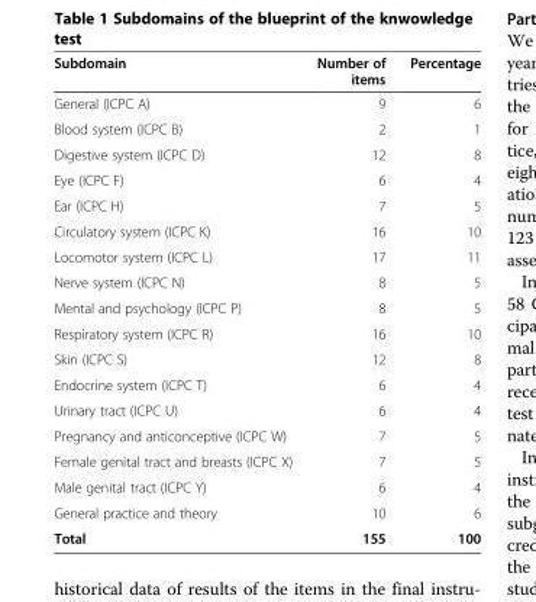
<table><thead><tr><td>Subdomain</td><td>Number of items</td><td>Percentage</td></tr></thead><tbody><tr><td>General (ICPC A)</td><td>9</td><td>6</td></tr><tr><td>Blood system (ICPC B)</td><td>2</td><td>1</td></tr><tr><td>Digestive system (ICPC D)</td><td>12</td><td>8</td></tr><tr><td>Eye (ICPC F)</td><td>6</td><td>4</td></tr><tr><td>Ear (ICPC H)</td><td>7</td><td>5</td></tr><tr><td>Circulatory system (ICPC K)</td><td>16</td><td>10</td></tr><tr><td>Locomotor system (ICPC L)</td><td>17</td><td>11</td></tr><tr><td>Nerve system (ICPC N)</td><td>8</td><td>5</td></tr><tr><td>Mental and psychology (ICPC P)</td><td>8</td><td>5</td></tr><tr><td>Respiratory system (ICPC R)</td><td>16</td><td>10</td></tr><tr><td>Skin (ICPC S)</td><td>12</td><td>8</td></tr><tr><td>Endocrine system (ICPC T)</td><td>6</td><td>4</td></tr><tr><td>Urinary tract (ICPC U)</td><td>6</td><td>4</td></tr><tr><td>Pregnancy and anticonceptive (ICPC W)</td><td>7</td><td>5</td></tr><tr><td>Female genital tract and breasts (ICPC X)</td><td>7</td><td>5</td></tr><tr><td>Male genital tract (ICPC Y)</td><td>6</td><td>4</td></tr><tr><td>General practice and theory</td><td>10</td><td>6</td></tr><tr><td>Total</td><td>155</td><td>100</td></tr></tbody></table>